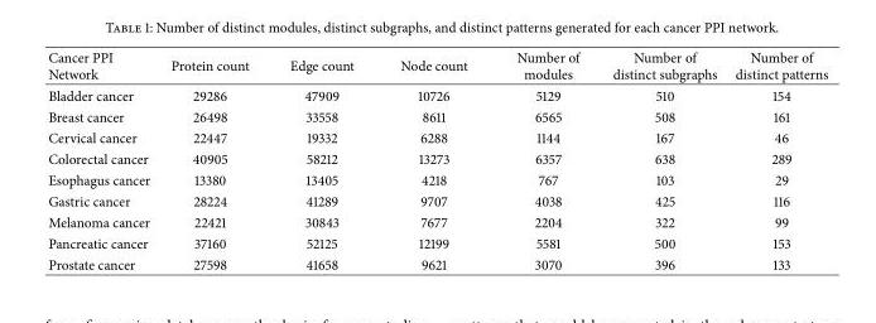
<table><thead><tr><td>Cancer PPI Network</td><td>Protein count</td><td>Edge count</td><td>Node count</td><td>Number of modules</td><td>Number of distinct subgraphs</td><td>Number of distinct patterns</td></tr></thead><tbody><tr><td>Bladder cancer</td><td>29286</td><td>47909</td><td>10726</td><td>5129</td><td>510</td><td>154</td></tr><tr><td>Breast cancer</td><td>26498</td><td>33558</td><td>8611</td><td>6565</td><td>508</td><td>161</td></tr><tr><td>Cervical cancer</td><td>22447</td><td>19332</td><td>6288</td><td>1144</td><td>167</td><td>46</td></tr><tr><td>Colorectal cancer</td><td>40905</td><td>58212</td><td>13273</td><td>6357</td><td>638</td><td>289</td></tr><tr><td>Esophagus cancer</td><td>13380</td><td>13405</td><td>4218</td><td>767</td><td>103</td><td>29</td></tr><tr><td>Gastric cancer</td><td>28224</td><td>41289</td><td>9707</td><td>4038</td><td>425</td><td>116</td></tr><tr><td>Melanoma cancer</td><td>22421</td><td>30843</td><td>7677</td><td>2204</td><td>322</td><td>99</td></tr><tr><td>Pancreatic cancer</td><td>37160</td><td>52125</td><td>12199</td><td>5581</td><td>500</td><td>153</td></tr><tr><td>Prostate cancer</td><td>27598</td><td>41658</td><td>9621</td><td>3070</td><td>396</td><td>133</td></tr></tbody></table>